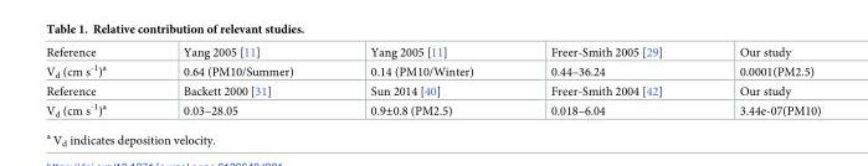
<table><tbody><tr><td>Reference</td><td>Yang 2005 [11]</td><td>Yang 2005 [11]</td><td>Freer-Smith 2005 [29]</td><td>Our study</td></tr><tr><td>V<sub>d</sub> (cm s<sup>-1</sup>)<sup>a</sup></td><td>0.64 (PM10/Summer)</td><td>0.14 (PM10/Winter)</td><td>0.44–36.24</td><td>0.0001(PM2.5)</td></tr><tr><td>Reference</td><td>Backett 2000 [31]</td><td>Sun 2014 [40]</td><td>Freer-Smith 2004 [42]</td><td>Our study</td></tr><tr><td>V<sub>d</sub> (cm s<sup>-1</sup>)<sup>a</sup></td><td>0.03–28.05</td><td>0.9±0.8 (PM2.5)</td><td>0.018–6.04</td><td>3.44e-07(PM10)</td></tr></tbody></table>